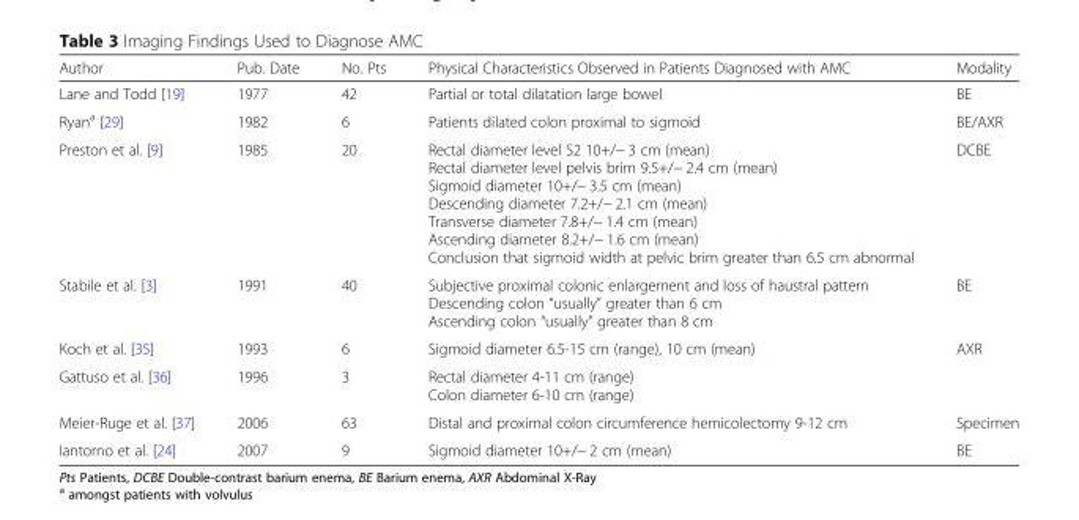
<table><thead><tr><td>Author</td><td>Pub. Date</td><td>No. Pts</td><td>Physical Characteristics Observed in Patients Diagnosed with AMC</td><td>Modality</td></tr></thead><tbody><tr><td>Lane and Todd [19]</td><td>1977</td><td>42</td><td>Partial or total dilatation large bowel</td><td>BE</td></tr><tr><td>Ryan<sup>a</sup> [29]</td><td>1982</td><td>6</td><td>Patients dilated colon proximal to sigmoid</td><td>BE/AXR</td></tr><tr><td>Preston et al. [9]</td><td>1985</td><td>20</td><td>Rectal diameter level S2 10+/− 3 cm (mean) Rectal diameter level pelvis brim 9.5+/− 2.4 cm (mean) Sigmoid diameter 10+/− 3.5 cm (mean) Descending diameter 7.2+/− 2.1 cm (mean) Transverse diameter 7.8+/− 1.4 cm (mean) Ascending diameter 8.2+/− 1.6 cm (mean) Conclusion that sigmoid width at pelvic brim greater than 6.5 cm abnormal</td><td>DCBE</td></tr><tr><td>Stabile et al. [3]</td><td>1991</td><td>40</td><td>Subjective proximal colonic enlargement and loss of haustral pattern Descending colon “usually” greater than 6 cm Ascending colon “usually” greater than 8 cm</td><td>BE</td></tr><tr><td>Koch et al. [35]</td><td>1993</td><td>6</td><td>Sigmoid diameter 6.5-15 cm (range), 10 cm (mean)</td><td>AXR</td></tr><tr><td>Gattuso et al. [36]</td><td>1996</td><td>3</td><td>Rectal diameter 4-11 cm (range) Colon diameter 6-10 cm (range)</td><td></td></tr><tr><td>Meier-Ruge et al. [37]</td><td>2006</td><td>63</td><td>Distal and proximal colon circumference hemicolectomy 9-12 cm</td><td>Specimen</td></tr><tr><td>Iantorno et al. [24]</td><td>2007</td><td>9</td><td>Sigmoid diameter 10+/− 2 cm (mean)</td><td>BE</td></tr></tbody></table>